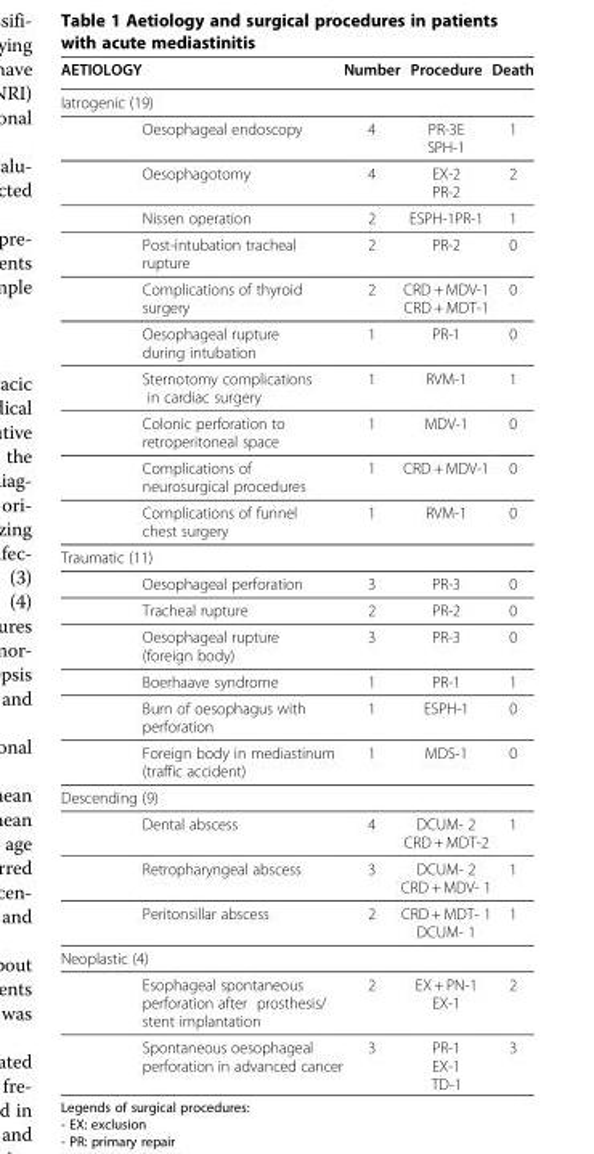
<table><thead><tr><td>AETIOLOGY</td><td></td><td>Number</td><td>Procedure</td><td>Death</td></tr></thead><tbody><tr><td colspan="5">Iatrogenic (19)</td></tr><tr><td></td><td>Oesophageal endoscopy</td><td>4</td><td>PR-3E SPH-1</td><td>1</td></tr><tr><td></td><td>Oesophagotomy</td><td>4</td><td>EX-2 PR-2</td><td>2</td></tr><tr><td></td><td>Nissen operation</td><td>2</td><td>ESPH-1PR-1</td><td>1</td></tr><tr><td></td><td>Post-intubation tracheal rupture</td><td>2</td><td>PR-2</td><td>0</td></tr><tr><td></td><td>Complications of thyroid surgery</td><td>2</td><td>CRD + MDV-1 CRD + MDT-1</td><td>0</td></tr><tr><td></td><td>Oesophageal rupture during intubation</td><td>1</td><td>PR-1</td><td>0</td></tr><tr><td></td><td>Sternotomy complications in cardiac surgery</td><td>1</td><td>RVM-1</td><td>1</td></tr><tr><td></td><td>Colonic perforation to retroperitoneal space</td><td>1</td><td>MDV-1</td><td>0</td></tr><tr><td></td><td>Complications of neurosurgical procedures</td><td>1</td><td>CRD + MDV-1</td><td>0</td></tr><tr><td></td><td>Complications of funnel chest surgery</td><td>1</td><td>RVM-1</td><td>0</td></tr><tr><td colspan="5">Traumatic (11)</td></tr><tr><td></td><td>Oesophageal perforation</td><td>3</td><td>PR-3</td><td>0</td></tr><tr><td></td><td>Tracheal rupture</td><td>2</td><td>PR-2</td><td>0</td></tr><tr><td></td><td>Oesophageal rupture (foreign body)</td><td>3</td><td>PR-3</td><td>0</td></tr><tr><td></td><td>Boerhaave syndrome</td><td>1</td><td>PR-1</td><td>1</td></tr><tr><td></td><td>Burn of oesophagus with perforation</td><td>1</td><td>ESPH-1</td><td>0</td></tr><tr><td></td><td>Foreign body in mediastinum (traffic accident)</td><td>1</td><td>MDS-1</td><td>0</td></tr><tr><td colspan="5">Descending (9)</td></tr><tr><td></td><td>Dental abscess</td><td>4</td><td>DCUM- 2 CRD + MDT-2</td><td>1</td></tr><tr><td></td><td>Retropharyngeal abscess</td><td>3</td><td>DCUM- 2 CRD + MDV- 1</td><td>1</td></tr><tr><td></td><td>Peritonsillar abscess</td><td>2</td><td>CRD + MDT- 1 DCUM- 1</td><td>1</td></tr><tr><td colspan="5">Neoplastic (4)</td></tr><tr><td></td><td>Esophageal spontaneous perforation after prosthesis/ stent implantation</td><td>2</td><td>EX + PN-1 EX-1</td><td>2</td></tr><tr><td></td><td>Spontaneous oesophageal perforation in advanced cancer</td><td>3</td><td>PR-1 EX-1 TD-1</td><td>3</td></tr></tbody></table>